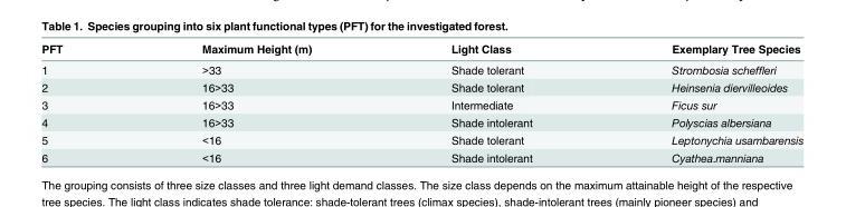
<table><thead><tr><td>PFT</td><td>Maximum Height (m)</td><td>Light Class</td><td>Exemplary Tree Species</td></tr></thead><tbody><tr><td>1</td><td>&gt;33</td><td>Shade tolerant</td><td>Strombosia scheffleri</td></tr><tr><td>2</td><td>16&gt;33</td><td>Shade tolerant</td><td>Heinsenia diervilleoides</td></tr><tr><td>3</td><td>16&gt;33</td><td>Intermediate</td><td>Ficus sur</td></tr><tr><td>4</td><td>16&gt;33</td><td>Shade intolerant</td><td>Polyscias albersiana</td></tr><tr><td>5</td><td>&lt;16</td><td>Shade tolerant</td><td>Leptonychia usambarensis</td></tr><tr><td>6</td><td>&lt;16</td><td>Shade intolerant</td><td>Cyathea.manniana</td></tr></tbody></table>